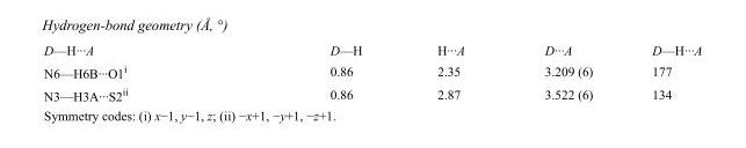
<table><tbody><tr><td>D—H···A</td><td>D—H</td><td>H···A</td><td>D···A</td><td>D—H···A</td></tr><tr><td>N6—H6B···O1<sup>i</sup></td><td>0.86</td><td>2.35</td><td>3.209 (6)</td><td>177</td></tr><tr><td>N3—H3A···S2<sup>ii</sup></td><td>0.86</td><td>2.87</td><td>3.522 (6)</td><td>134</td></tr></tbody></table>